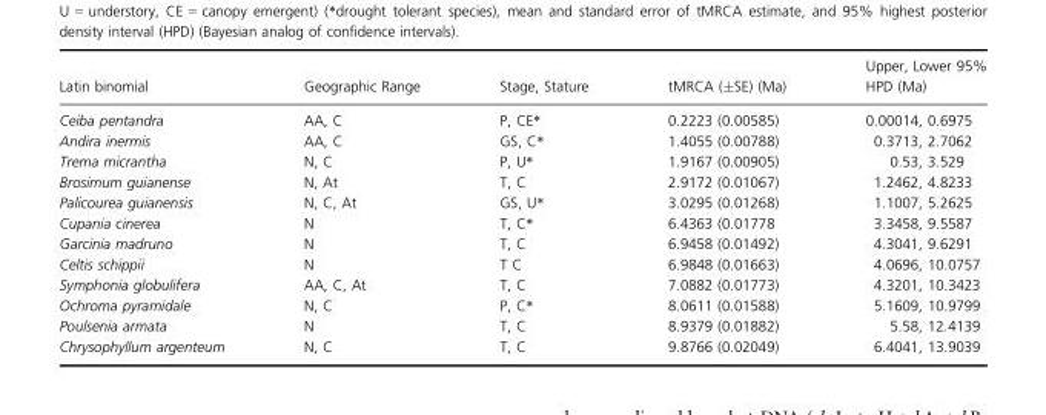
<table><thead><tr><td>Latin binomial</td><td>Geographic Range</td><td>Stage, Stature</td><td>tMRCA (±SE) (Ma)</td><td>Upper, Lower 95% HPD (Ma)</td></tr></thead><tbody><tr><td>Ceiba pentandra</td><td>AA, C</td><td>P, CE*</td><td>0.2223 (0.00585)</td><td>0.00014, 0.6975</td></tr><tr><td>Andira inermis</td><td>AA, C</td><td>GS, C*</td><td>1.4055 (0.00788)</td><td>0.3713, 2.7062</td></tr><tr><td>Trema micrantha</td><td>N, C</td><td>P, U*</td><td>1.9167 (0.00905)</td><td>0.53, 3.529</td></tr><tr><td>Brosimum guianense</td><td>N, At</td><td>T, C</td><td>2.9172 (0.01067)</td><td>1.2462, 4.8233</td></tr><tr><td>Palicourea guianensis</td><td>N, C, At</td><td>GS, U*</td><td>3.0295 (0.01268)</td><td>1.1007, 5.2625</td></tr><tr><td>Cupania cinerea</td><td>N</td><td>T, C*</td><td>6.4363 (0.01778</td><td>3.3458, 9.5587</td></tr><tr><td>Garcinia madruno</td><td>N</td><td>T, C</td><td>6.9458 (0.01492)</td><td>4.3041, 9.6291</td></tr><tr><td>Celtis schippii</td><td>N</td><td>T C</td><td>6.9848 (0.01663)</td><td>4.0696, 10.0757</td></tr><tr><td>Symphonia globulifera</td><td>AA, C, At</td><td>T, C</td><td>7.0882 (0.01773)</td><td>4.3201, 10.3423</td></tr><tr><td>Ochroma pyramidale</td><td>N, C</td><td>P, C*</td><td>8.0611 (0.01588)</td><td>5.1609, 10.9799</td></tr><tr><td>Poulsenia armata</td><td>N</td><td>T, C</td><td>8.9379 (0.01882)</td><td>5.58, 12.4139</td></tr><tr><td>Chrysophyllum argenteum</td><td>N, C</td><td>T, C</td><td>9.8766 (0.02049)</td><td>6.4041, 13.9039</td></tr></tbody></table>